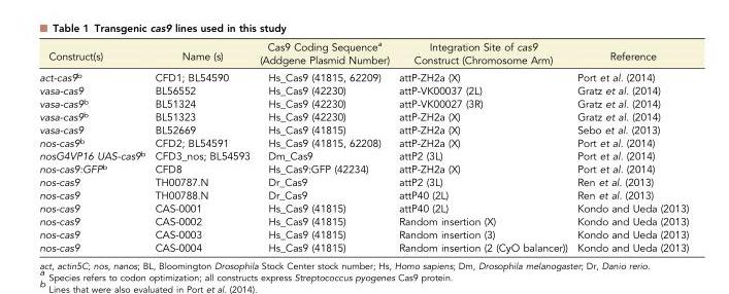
<table><thead><tr><td>Construct(s)</td><td>Name (s)</td><td>Cas9 Coding Sequencea (Addgene Plasmid Number)</td><td>Integration Site of cas9 Construct (Chromosome Arm)</td><td>Reference</td></tr></thead><tbody><tr><td>act-cas9<sup>b</sup></td><td>CFD1; BL54590</td><td>Hs_Cas9 (41815, 62209)</td><td>attP-ZH2a (X)</td><td>Port et al. (2014)</td></tr><tr><td>vasa-cas9</td><td>BL56552</td><td>Hs_Cas9 (42230)</td><td>attP-VK00037 (2L)</td><td>Gratz et al. (2014)</td></tr><tr><td>vasa-cas9<sup>b</sup></td><td>BL51324</td><td>Hs_Cas9 (42230)</td><td>attP-VK00027 (3R)</td><td>Gratz et al. (2014)</td></tr><tr><td>vasa-cas9<sup>b</sup></td><td>BL51323</td><td>Hs_Cas9 (42230)</td><td>attP-ZH2a (X)</td><td>Gratz et al. (2014)</td></tr><tr><td>vasa-cas9</td><td>BL52669</td><td>Hs_Cas9 (41815)</td><td>attP-ZH2a (X)</td><td>Sebo et al. (2013)</td></tr><tr><td>nos-cas9<sup>b</sup></td><td>CFD2; BL54591</td><td>Hs_Cas9 (41815, 62208)</td><td>attP-ZH2a (X)</td><td>Port et al. (2014)</td></tr><tr><td>nosG4VP16 UAS-cas9<sup>b</sup></td><td>CFD3_nos; BL54593</td><td>Dm_Cas9</td><td>attP2 (3L)</td><td>Port et al. (2014)</td></tr><tr><td>nos-cas9:GFP<sup>b</sup></td><td>CFD8</td><td>Hs_Cas9:GFP (42234)</td><td>attP-ZH2a (X)</td><td>Port et al. (2014)</td></tr><tr><td>nos-cas9</td><td>TH00787.N</td><td>Dr_Cas9</td><td>attP2 (3L)</td><td>Ren et al. (2013)</td></tr><tr><td>nos-cas9</td><td>TH00788.N</td><td>Dr_Cas9</td><td>attP40 (2L)</td><td>Ren et al. (2013)</td></tr><tr><td>nos-cas9</td><td>CAS-0001</td><td>Hs_Cas9 (41815)</td><td>attP40 (2L)</td><td>Kondo and Ueda (2013)</td></tr><tr><td>nos-cas9</td><td>CAS-0002</td><td>Hs_Cas9 (41815)</td><td>Random insertion (X)</td><td>Kondo and Ueda (2013)</td></tr><tr><td>nos-cas9</td><td>CAS-0003</td><td>Hs_Cas9 (41815)</td><td>Random insertion (3)</td><td>Kondo and Ueda (2013)</td></tr><tr><td>nos-cas9</td><td>CAS-0004</td><td>Hs_Cas9 (41815)</td><td>Random insertion (2 (CyO balancer))</td><td>Kondo and Ueda (2013)</td></tr></tbody></table>